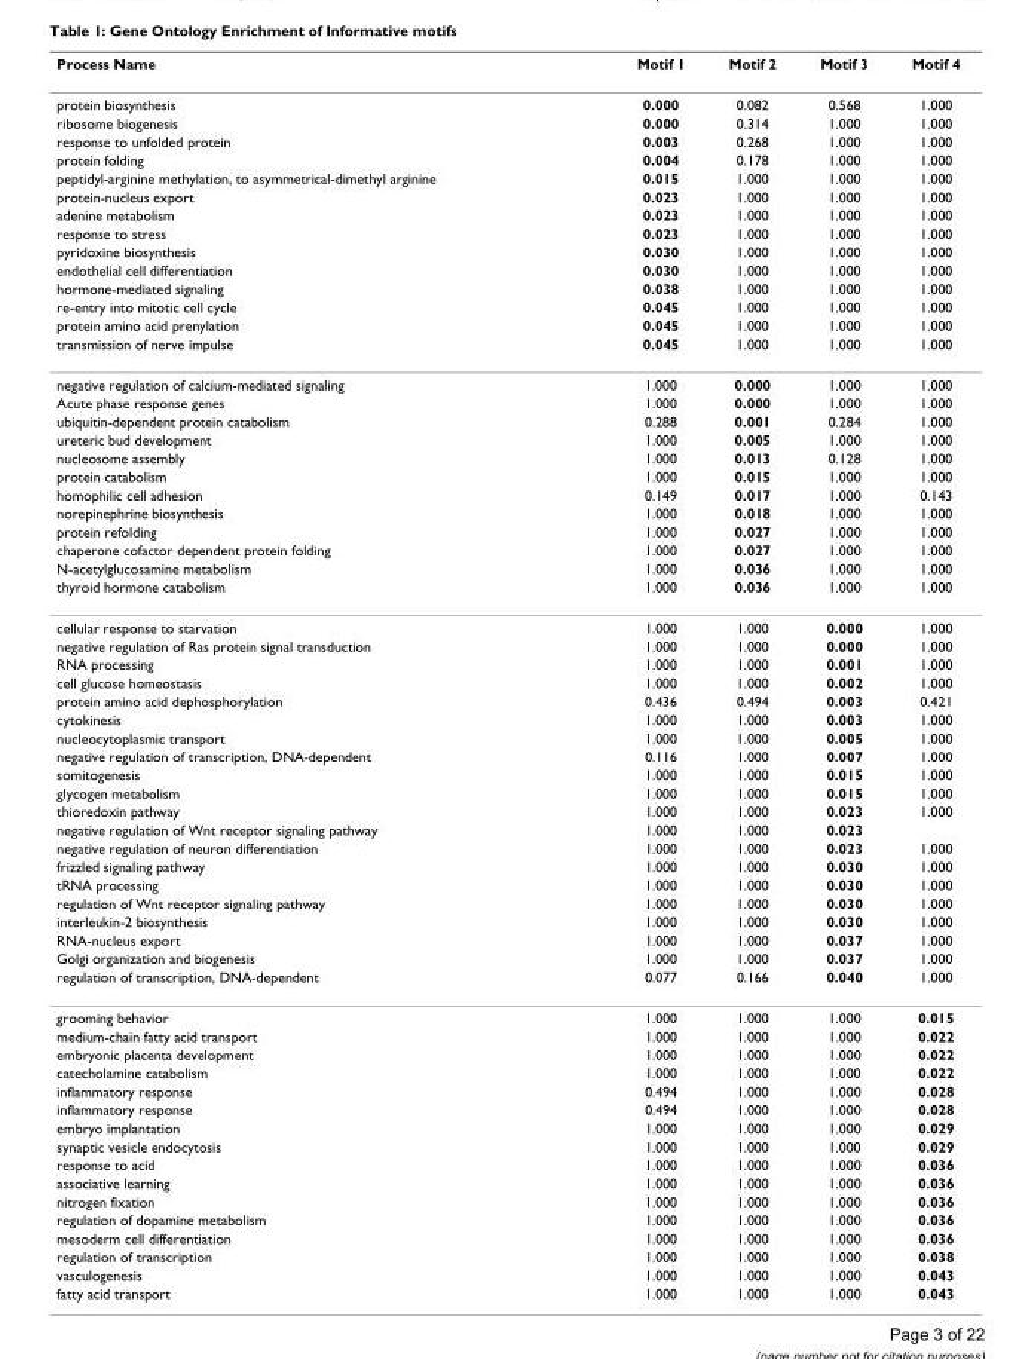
<table><thead><tr><td>Process Name</td><td>Motif 1</td><td>Motif 2</td><td>Motif 3</td><td>Motif 4</td></tr></thead><tbody><tr><td>protein biosynthesis</td><td>0.000</td><td>0.082</td><td>0.568</td><td>1.000</td></tr><tr><td>ribosome biogenesis</td><td>0.000</td><td>0.314</td><td>1.000</td><td>1.000</td></tr><tr><td>response to unfolded protein</td><td>0.003</td><td>0.268</td><td>1.000</td><td>1.000</td></tr><tr><td>protein folding</td><td>0.004</td><td>0.178</td><td>1.000</td><td>1.000</td></tr><tr><td>peptidyl-arginine methylation, to asymmetrical-dimethyl arginine</td><td>0.015</td><td>1.000</td><td>1.000</td><td>1.000</td></tr><tr><td>protein-nucleus export</td><td>0.023</td><td>1.000</td><td>1.000</td><td>1.000</td></tr><tr><td>adenine metabolism</td><td>0.023</td><td>1.000</td><td>1.000</td><td>1.000</td></tr><tr><td>response to stress</td><td>0.023</td><td>1.000</td><td>1.000</td><td>1.000</td></tr><tr><td>pyridoxine biosynthesis</td><td>0.030</td><td>1.000</td><td>1.000</td><td>1.000</td></tr><tr><td>endothelial cell differentiation</td><td>0.030</td><td>1.000</td><td>1.000</td><td>1.000</td></tr><tr><td>hormone-mediated signaling</td><td>0.038</td><td>1.000</td><td>1.000</td><td>1.000</td></tr><tr><td>re-entry into mitotic cell cycle</td><td>0.045</td><td>1.000</td><td>1.000</td><td>1.000</td></tr><tr><td>protein amino acid prenylation</td><td>0.045</td><td>1.000</td><td>1.000</td><td>1.000</td></tr><tr><td>transmission of nerve impulse</td><td>0.045</td><td>1.000</td><td>1.000</td><td>1.000</td></tr><tr><td>negative regulation of calcium-mediated signaling</td><td>1.000</td><td>0.000</td><td>1.000</td><td>1.000</td></tr><tr><td>Acute phase response genes</td><td>1.000</td><td>0.000</td><td>1.000</td><td>1.000</td></tr><tr><td>ubiquitin-dependent protein catabolism</td><td>0.288</td><td>0.001</td><td>0.284</td><td>1.000</td></tr><tr><td>ureteric bud development</td><td>1.000</td><td>0.005</td><td>1.000</td><td>1.000</td></tr><tr><td>nucleosome assembly</td><td>1.000</td><td>0.013</td><td>0.128</td><td>1.000</td></tr><tr><td>protein catabolism</td><td>1.000</td><td>0.015</td><td>1.000</td><td>1.000</td></tr><tr><td>homophilic cell adhesion</td><td>0.149</td><td>0.017</td><td>1.000</td><td>0.143</td></tr><tr><td>norepinephrine biosynthesis</td><td>1.000</td><td>0.018</td><td>1.000</td><td>1.000</td></tr><tr><td>protein refolding</td><td>1.000</td><td>0.027</td><td>1.000</td><td>1.000</td></tr><tr><td>chaperone cofactor dependent protein folding</td><td>1.000</td><td>0.027</td><td>1.000</td><td>1.000</td></tr><tr><td>N-acetylglucosamine metabolism</td><td>1.000</td><td>0.036</td><td>1.000</td><td>1.000</td></tr><tr><td>thyroid hormone catabolism</td><td>1.000</td><td>0.036</td><td>1.000</td><td>1.000</td></tr><tr><td>cellular response to starvation</td><td>1.000</td><td>1.000</td><td>0.000</td><td>1.000</td></tr><tr><td>negative regulation of Ras protein signal transduction</td><td>1.000</td><td>1.000</td><td>0.000</td><td>1.000</td></tr><tr><td>RNA processing</td><td>1.000</td><td>1.000</td><td>0.001</td><td>1.000</td></tr><tr><td>cell glucose homeostasis</td><td>1.000</td><td>1.000</td><td>0.002</td><td>1.000</td></tr><tr><td>protein amino acid dephosphorylation</td><td>0.436</td><td>0.494</td><td>0.003</td><td>0.421</td></tr><tr><td>cytokinesis</td><td>1.000</td><td>1.000</td><td>0.003</td><td>1.000</td></tr><tr><td>nucleocytoplasmic transport</td><td>1.000</td><td>1.000</td><td>0.005</td><td>1.000</td></tr><tr><td>negative regulation of transcription, DNA-dependent</td><td>0.116</td><td>1.000</td><td>0.007</td><td>1.000</td></tr><tr><td>somitogenesis</td><td>1.000</td><td>1.000</td><td>0.015</td><td>1.000</td></tr><tr><td>glycogen metabolism</td><td>1.000</td><td>1.000</td><td>0.015</td><td>1.000</td></tr><tr><td>thioredoxin pathway</td><td>1.000</td><td>1.000</td><td>0.023</td><td>1.000</td></tr><tr><td>negative regulation of Wnt receptor signaling pathway</td><td>1.000</td><td>1.000</td><td>0.023</td><td></td></tr><tr><td>negative regulation of neuron differentiation</td><td>1.000</td><td>1.000</td><td>0.023</td><td>1.000</td></tr><tr><td>frizzled signaling pathway</td><td>1.000</td><td>1.000</td><td>0.030</td><td>1.000</td></tr><tr><td>tRNA processing</td><td>1.000</td><td>1.000</td><td>0.030</td><td>1.000</td></tr><tr><td>regulation of Wnt receptor signaling pathway</td><td>1.000</td><td>1.000</td><td>0.030</td><td>1.000</td></tr><tr><td>interleukin-2 biosynthesis</td><td>1.000</td><td>1.000</td><td>0.030</td><td>1.000</td></tr><tr><td>RNA-nucleus export</td><td>1.000</td><td>1.000</td><td>0.037</td><td>1.000</td></tr><tr><td>Golgi organization and biogenesis</td><td>1.000</td><td>1.000</td><td>0.037</td><td>1.000</td></tr><tr><td>regulation of transcription, DNA-dependent</td><td>0.077</td><td>0.166</td><td>0.040</td><td>1.000</td></tr><tr><td>grooming behavior</td><td>1.000</td><td>1.000</td><td>1.000</td><td>0.015</td></tr><tr><td>medium-chain fatty acid transport</td><td>1.000</td><td>1.000</td><td>1.000</td><td>0.022</td></tr><tr><td>embryonic placenta development</td><td>1.000</td><td>1.000</td><td>1.000</td><td>0.022</td></tr><tr><td>catecholamine catabolism</td><td>1.000</td><td>1.000</td><td>1.000</td><td>0.022</td></tr><tr><td>inflammatory response</td><td>0.494</td><td>1.000</td><td>1.000</td><td>0.028</td></tr><tr><td>inflammatory response</td><td>0.494</td><td>1.000</td><td>1.000</td><td>0.028</td></tr><tr><td>embryo implantation</td><td>1.000</td><td>1.000</td><td>1.000</td><td>0.029</td></tr><tr><td>synaptic vesicle endocytosis</td><td>1.000</td><td>1.000</td><td>1.000</td><td>0.029</td></tr><tr><td>response to acid</td><td>1.000</td><td>1.000</td><td>1.000</td><td>0.036</td></tr><tr><td>associative learning</td><td>1.000</td><td>1.000</td><td>1.000</td><td>0.036</td></tr><tr><td>nitrogen fixation</td><td>1.000</td><td>1.000</td><td>1.000</td><td>0.036</td></tr><tr><td>regulation of dopamine metabolism</td><td>1.000</td><td>1.000</td><td>1.000</td><td>0.036</td></tr><tr><td>mesoderm cell differentiation</td><td>1.000</td><td>1.000</td><td>1.000</td><td>0.036</td></tr><tr><td>regulation of transcription</td><td>1.000</td><td>1.000</td><td>1.000</td><td>0.038</td></tr><tr><td>vasculogenesis</td><td>1.000</td><td>1.000</td><td>1.000</td><td>0.043</td></tr><tr><td>fatty acid transport</td><td>1.000</td><td>1.000</td><td>1.000</td><td>0.043</td></tr></tbody></table>